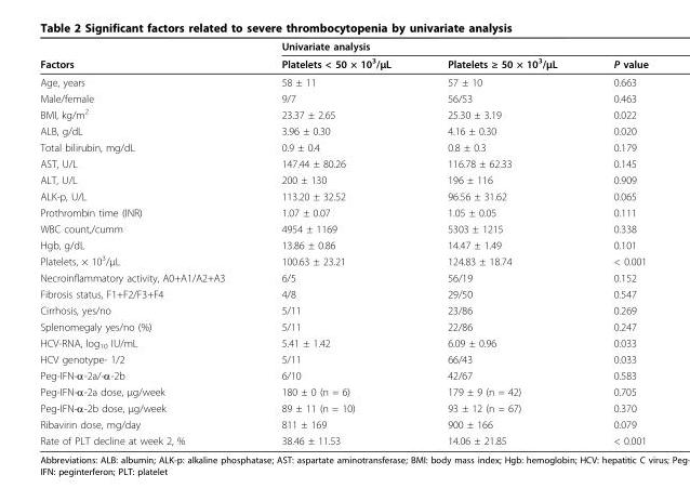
<table><thead><tr><td rowspan="2">Factors</td><td colspan="3">Univariate analysis</td></tr><tr><td>Platelets &lt; 50 × 10<sup>3</sup>/μL</td><td>Platelets ≥ 50 × 10<sup>3</sup>/μL</td><td>P value</td></tr></thead><tbody><tr><td>Age, years</td><td>58 ± 11</td><td>57 ± 10</td><td>0.663</td></tr><tr><td>Male/female</td><td>9/7</td><td>56/53</td><td>0.463</td></tr><tr><td>BMI, kg/m<sup>2</sup></td><td>23.37 ± 2.65</td><td>25.30 ± 3.19</td><td>0.022</td></tr><tr><td>ALB, g/dL</td><td>3.96 ± 0.30</td><td>4.16 ± 0.30</td><td>0.020</td></tr><tr><td>Total bilirubin, mg/dL</td><td>0.9 ± 0.4</td><td>0.8 ± 0.3</td><td>0.179</td></tr><tr><td>AST, U/L</td><td>147.44 ± 80.26</td><td>116.78 ± 62.33</td><td>0.145</td></tr><tr><td>ALT, U/L</td><td>200 ± 130</td><td>196 ± 116</td><td>0.909</td></tr><tr><td>ALK-p, U/L</td><td>113.20 ± 32.52</td><td>96.56 ± 31.62</td><td>0.065</td></tr><tr><td>Prothrombin time (INR)</td><td>1.07 ± 0.07</td><td>1.05 ± 0.05</td><td>0.111</td></tr><tr><td>WBC count,/cumm</td><td>4954 ± 1169</td><td>5303 ± 1215</td><td>0.338</td></tr><tr><td>Hgb, g/dL</td><td>13.86 ± 0.86</td><td>14.47 ± 1.49</td><td>0.101</td></tr><tr><td>Platelets, × 10<sup>3</sup>/μL</td><td>100.63 ± 23.21</td><td>124.83 ± 18.74</td><td>&lt; 0.001</td></tr><tr><td>Necroinflammatory activity, A0+A1/A2+A3</td><td>6/5</td><td>56/19</td><td>0.152</td></tr><tr><td>Fibrosis status, F1+F2/F3+F4</td><td>4/8</td><td>29/50</td><td>0.547</td></tr><tr><td>Cirrhosis, yes/no</td><td>5/11</td><td>23/86</td><td>0.269</td></tr><tr><td>Splenomegaly yes/no (%)</td><td>5/11</td><td>22/86</td><td>0.247</td></tr><tr><td>HCV-RNA, log<sub>10</sub> IU/mL</td><td>5.41 ± 1.42</td><td>6.09 ± 0.96</td><td>0.033</td></tr><tr><td>HCV genotype- 1/2</td><td>5/11</td><td>66/43</td><td>0.033</td></tr><tr><td>Peg-IFN-α-2a/-α-2b</td><td>6/10</td><td>42/67</td><td>0.583</td></tr><tr><td>Peg-IFN-α-2a dose, μg/week</td><td>180 ± 0 (n = 6)</td><td>179 ± 9 (n = 42)</td><td>0.705</td></tr><tr><td>Peg-IFN-α-2b dose, μg/week</td><td>89 ± 11 (n = 10)</td><td>93 ± 12 (n = 67)</td><td>0.370</td></tr><tr><td>Ribavirin dose, mg/day</td><td>811 ± 169</td><td>900 ± 166</td><td>0.079</td></tr><tr><td>Rate of PLT decline at week 2, %</td><td>38.46 ± 11.53</td><td>14.06 ± 21.85</td><td>&lt; 0.001</td></tr></tbody></table>